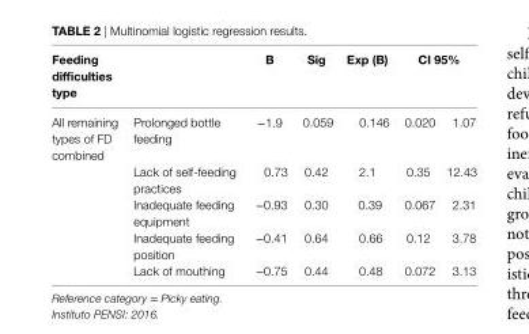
<table><thead><tr><td rowspan="2">Feeding difficulties type All remaining types of FD combined</td><td rowspan="2">Prolonged bottle feeding</td><td rowspan="2">B −1.9</td><td rowspan="2">sig 0.059</td><td rowspan="2">exp (B) 0.146</td><td colspan="2">ci 95%</td></tr><tr><td>0.020</td><td>1.07</td></tr></thead><tbody><tr><td></td><td>Lack of self-feeding practices</td><td>0.73</td><td>0.42</td><td>2.1</td><td>0.35</td><td>12.43</td></tr><tr><td></td><td>Inadequate feeding equipment</td><td>−0.93</td><td>0.30</td><td>0.39</td><td>0.067</td><td>2.31</td></tr><tr><td></td><td>Inadequate feeding position</td><td>−0.41</td><td>0.64</td><td>0.66</td><td>0.12</td><td>3.78</td></tr><tr><td></td><td>Lack of mouthing</td><td>−0.75</td><td>0.44</td><td>0.48</td><td>0.072</td><td>3.13</td></tr></tbody></table>